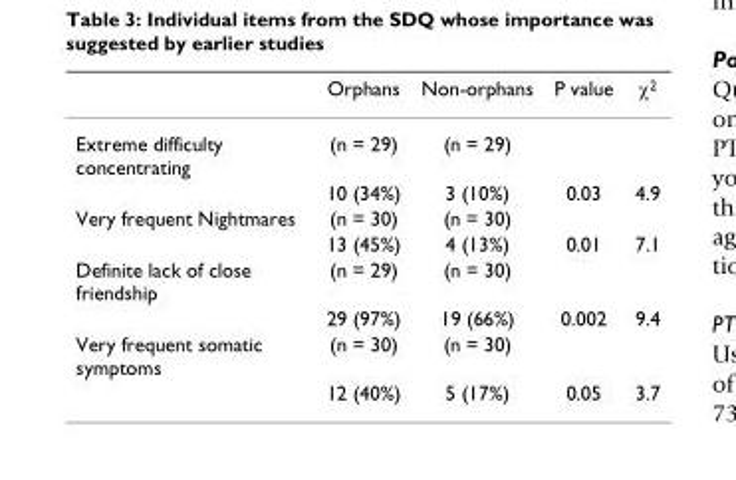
<table><thead><tr><td></td><td>Orphans</td><td>Non-orphans</td><td>P value</td><td>χ<sup>2</sup></td></tr></thead><tbody><tr><td rowspan="2">Extreme difficulty concentrating</td><td>(n = 29)</td><td>(n = 29)</td><td></td><td></td></tr><tr><td>10 (34%)</td><td>3 (10%)</td><td>0.03</td><td>4.9</td></tr><tr><td rowspan="2">Very frequent Nightmares</td><td>(n = 30)</td><td>(n = 30)</td><td></td><td></td></tr><tr><td>13 (45%)</td><td>4 (13%)</td><td>0.01</td><td>7.1</td></tr><tr><td rowspan="2">Definite lack of close friendship</td><td>(n = 29)</td><td>(n = 30)</td><td></td><td></td></tr><tr><td>29 (97%)</td><td>19 (66%)</td><td>0.002</td><td>9.4</td></tr><tr><td rowspan="2">Very frequent somatic symptoms</td><td>(n = 30)</td><td>(n = 30)</td><td></td><td></td></tr><tr><td>12 (40%)</td><td>5 (17%)</td><td>0.05</td><td>3.7</td></tr></tbody></table>